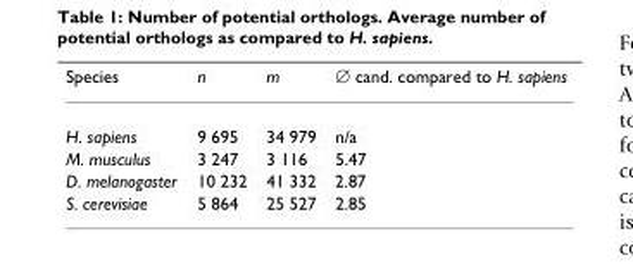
<table><thead><tr><td>Species</td><td>n</td><td>m</td><td>∅ cand. compared to H. sapiens</td></tr></thead><tbody><tr><td>H. sapiens</td><td>9 695</td><td>34 979</td><td>n/a</td></tr><tr><td>M. musculus</td><td>3 247</td><td>3 116</td><td>5.47</td></tr><tr><td>D. melanogaster</td><td>10 232</td><td>41 332</td><td>2.87</td></tr><tr><td>S. cerevisiae</td><td>5 864</td><td>25 527</td><td>2.85</td></tr></tbody></table>